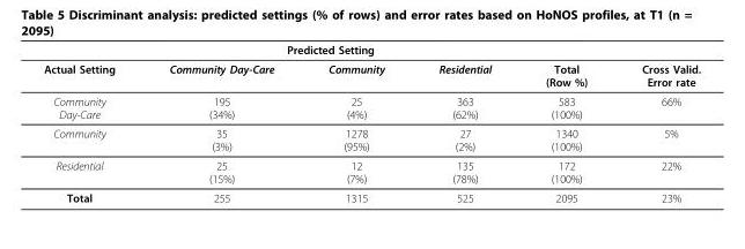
<table><thead><tr><td rowspan="2">Actual Setting</td><td colspan="3">Predicted Setting</td><td rowspan="2">Total (Row %)</td><td rowspan="2">Cross Valid. Error rate</td></tr><tr><td>Community Day-Care</td><td>Community</td><td>Residential</td></tr></thead><tbody><tr><td>Community Day-Care</td><td>195 (34%)</td><td>25 (4%)</td><td>363 (62%)</td><td>583 (100%)</td><td>66%</td></tr><tr><td>Community</td><td>35 (3%)</td><td>1278 (95%)</td><td>27 (2%)</td><td>1340 (100%)</td><td>5%</td></tr><tr><td>Residential</td><td>25 (15%)</td><td>12 (7%)</td><td>135 (78%)</td><td>172 (100%)</td><td>22%</td></tr><tr><td>Total</td><td>255</td><td>1315</td><td>525</td><td>2095</td><td>23%</td></tr></tbody></table>